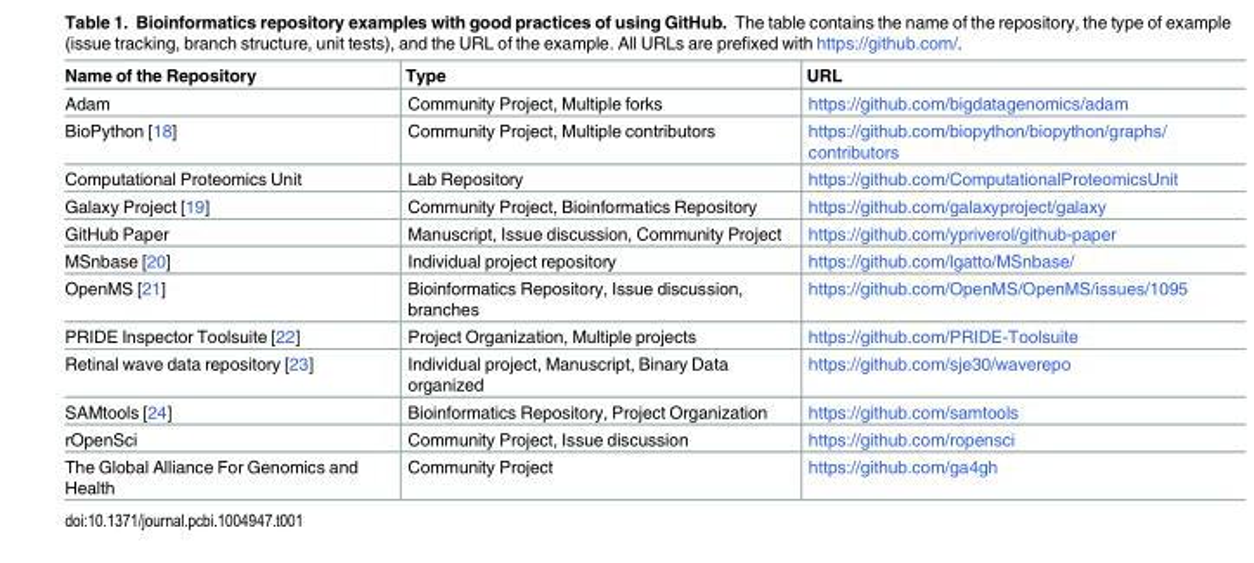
<table><thead><tr><td>Name of the Repository</td><td>Type</td><td>URL</td></tr></thead><tbody><tr><td>Adam</td><td>Community Project, Multiple forks</td><td>https://github.com/bigdatagenomics/adam</td></tr><tr><td>BioPython [18]</td><td>Community Project, Multiple contributors</td><td>https://github.com/biopython/biopython/graphs/ contributors</td></tr><tr><td>Computational Proteomics Unit</td><td>Lab Repository</td><td>https://github.com/ComputationalProteomicsUnit</td></tr><tr><td>Galaxy Project [19]</td><td>Community Project, Bioinformatics Repository</td><td>https://github.com/galaxyproject/galaxy</td></tr><tr><td>GitHub Paper</td><td>Manuscript, Issue discussion, Community Project</td><td>https://github.com/ypriverol/github-paper</td></tr><tr><td>MSnbase [20]</td><td>Individual project repository</td><td>https://github.com/lgatto/MSnbase/</td></tr><tr><td>OpenMS [21]</td><td>Bioinformatics Repository, Issue discussion, branches</td><td>https://github.com/OpenMS/OpenMS/issues/1095</td></tr><tr><td>PRIDE Inspector Toolsuite [22]</td><td>Project Organization, Multiple projects</td><td>https://github.com/PRIDE-Toolsuite</td></tr><tr><td>Retinal wave data repository [23]</td><td>Individual project, Manuscript, Binary Data organized</td><td>https://github.com/sje30/waverepo</td></tr><tr><td>SAMtools [24]</td><td>Bioinformatics Repository, Project Organization</td><td>https://github.com/samtools</td></tr><tr><td>rOpenSci</td><td>Community Project, Issue discussion</td><td>https://github.com/ropensci</td></tr><tr><td>The Global Alliance For Genomics and Health</td><td>Community Project</td><td>https://github.com/ga4gh</td></tr></tbody></table>